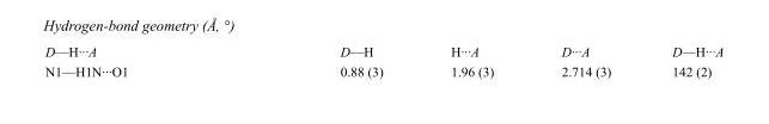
<table><tbody><tr><td>D—H···A</td><td>D—H</td><td>H···A</td><td>D···A</td><td>D—H···A</td></tr><tr><td>N1—H1N···O1</td><td>0.88 (3)</td><td>1.96 (3)</td><td>2.714 (3)</td><td>142 (2)</td></tr></tbody></table>